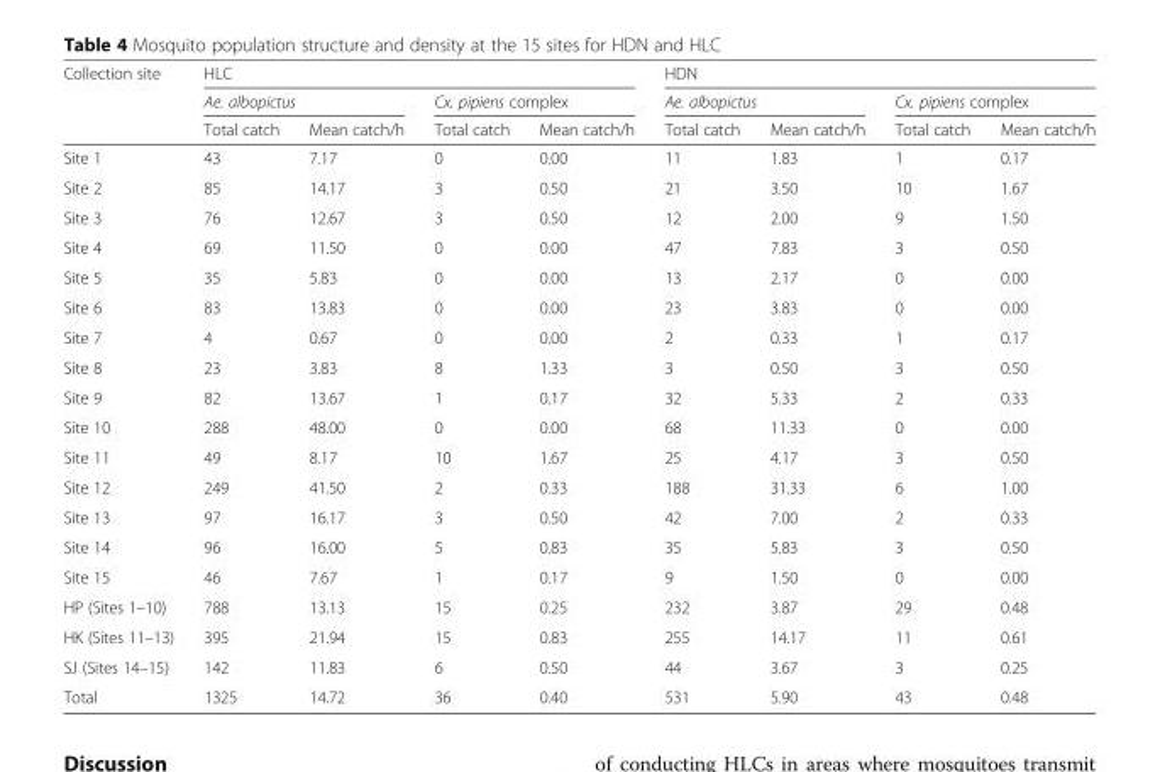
<table><thead><tr><td rowspan="3">Collection site</td><td colspan="4">HLC</td><td colspan="4">HDN</td></tr><tr><td colspan="2">Ae. albopictus</td><td colspan="2">Cx. pipiens complex</td><td colspan="2">Ae. albopictus</td><td colspan="2">Cx. pipiens complex</td></tr><tr><td>Total catch</td><td>Mean catch/h</td><td>Total catch</td><td>Mean catch/h</td><td>Total catch</td><td>Mean catch/h</td><td>Total catch</td><td>Mean catch/h</td></tr></thead><tbody><tr><td>Site 1</td><td>43</td><td>7.17</td><td>0</td><td>0.00</td><td>11</td><td>1.83</td><td>1</td><td>0.17</td></tr><tr><td>Site 2</td><td>85</td><td>14.17</td><td>3</td><td>0.50</td><td>21</td><td>3.50</td><td>10</td><td>1.67</td></tr><tr><td>Site 3</td><td>76</td><td>12.67</td><td>3</td><td>0.50</td><td>12</td><td>2.00</td><td>9</td><td>1.50</td></tr><tr><td>Site 4</td><td>69</td><td>11.50</td><td>0</td><td>0.00</td><td>47</td><td>7.83</td><td>3</td><td>0.50</td></tr><tr><td>Site 5</td><td>35</td><td>5.83</td><td>0</td><td>0.00</td><td>13</td><td>2.17</td><td>0</td><td>0.00</td></tr><tr><td>Site 6</td><td>83</td><td>13.83</td><td>0</td><td>0.00</td><td>23</td><td>3.83</td><td>0</td><td>0.00</td></tr><tr><td>Site 7</td><td>4</td><td>0.67</td><td>0</td><td>0.00</td><td>2</td><td>0.33</td><td>1</td><td>0.17</td></tr><tr><td>Site 8</td><td>23</td><td>3.83</td><td>8</td><td>1.33</td><td>3</td><td>0.50</td><td>3</td><td>0.50</td></tr><tr><td>Site 9</td><td>82</td><td>13.67</td><td>1</td><td>0.17</td><td>32</td><td>5.33</td><td>2</td><td>0.33</td></tr><tr><td>Site 10</td><td>288</td><td>48.00</td><td>0</td><td>0.00</td><td>68</td><td>11.33</td><td>0</td><td>0.00</td></tr><tr><td>Site 11</td><td>49</td><td>8.17</td><td>10</td><td>1.67</td><td>25</td><td>4.17</td><td>3</td><td>0.50</td></tr><tr><td>Site 12</td><td>249</td><td>41.50</td><td>2</td><td>0.33</td><td>188</td><td>31.33</td><td>6</td><td>1.00</td></tr><tr><td>Site 13</td><td>97</td><td>16.17</td><td>3</td><td>0.50</td><td>42</td><td>7.00</td><td>2</td><td>0.33</td></tr><tr><td>Site 14</td><td>96</td><td>16.00</td><td>5</td><td>0.83</td><td>35</td><td>5.83</td><td>3</td><td>0.50</td></tr><tr><td>Site 15</td><td>46</td><td>7.67</td><td>1</td><td>0.17</td><td>9</td><td>1.50</td><td>0</td><td>0.00</td></tr><tr><td>HP (Sites 1–10)</td><td>788</td><td>13.13</td><td>15</td><td>0.25</td><td>232</td><td>3.87</td><td>29</td><td>0.48</td></tr><tr><td>HK (Sites 11–13)</td><td>395</td><td>21.94</td><td>15</td><td>0.83</td><td>255</td><td>14.17</td><td>11</td><td>0.61</td></tr><tr><td>SJ (Sites 14–15)</td><td>142</td><td>11.83</td><td>6</td><td>0.50</td><td>44</td><td>3.67</td><td>3</td><td>0.25</td></tr><tr><td>Total</td><td>1325</td><td>14.72</td><td>36</td><td>0.40</td><td>531</td><td>5.90</td><td>43</td><td>0.48</td></tr></tbody></table>